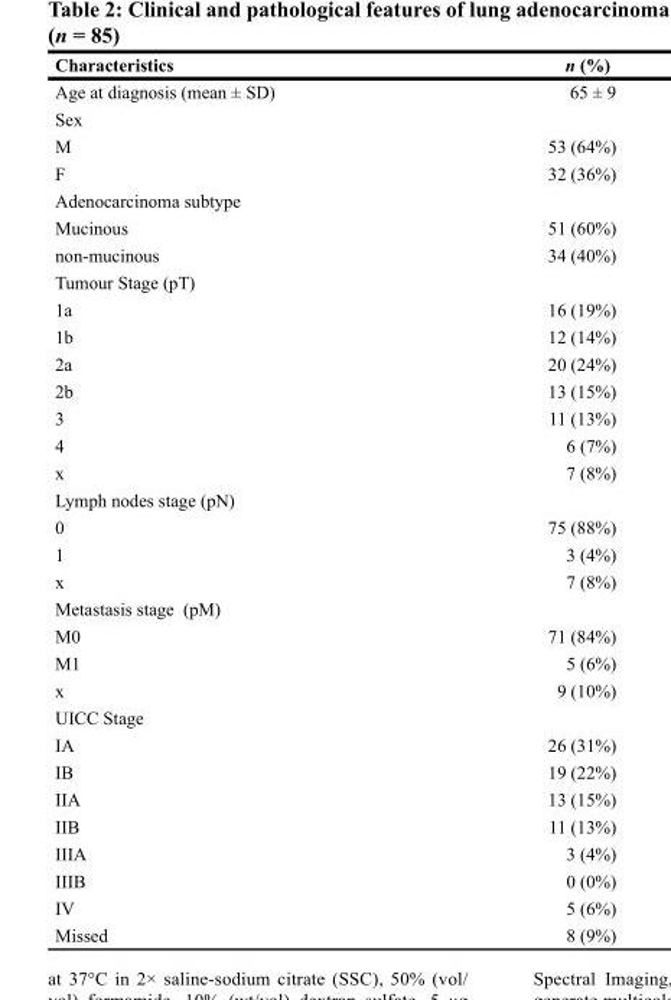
<table><thead><tr><td>Characteristics</td><td>n (%)</td></tr></thead><tbody><tr><td>Age at diagnosis (mean ± SD)</td><td>65 ± 9</td></tr><tr><td colspan="2">Sex</td></tr><tr><td>M</td><td>53 (64%)</td></tr><tr><td>F</td><td>32 (36%)</td></tr><tr><td colspan="2">Adenocarcinoma subtype</td></tr><tr><td>Mucinous</td><td>51 (60%)</td></tr><tr><td>non-mucinous</td><td>34 (40%)</td></tr><tr><td colspan="2">Tumour Stage (pT)</td></tr><tr><td>1a</td><td>16 (19%)</td></tr><tr><td>1b</td><td>12 (14%)</td></tr><tr><td>2a</td><td>20 (24%)</td></tr><tr><td>2b</td><td>13 (15%)</td></tr><tr><td>3</td><td>11 (13%)</td></tr><tr><td>4</td><td>6 (7%)</td></tr><tr><td>x</td><td>7 (8%)</td></tr><tr><td colspan="2">Lymph nodes stage (pN)</td></tr><tr><td>0</td><td>75 (88%)</td></tr><tr><td>1</td><td>3 (4%)</td></tr><tr><td>x</td><td>7 (8%)</td></tr><tr><td colspan="2">Metastasis stage (pM)</td></tr><tr><td>M0</td><td>71 (84%)</td></tr><tr><td>M1</td><td>5 (6%)</td></tr><tr><td>x</td><td>9 (10%)</td></tr><tr><td colspan="2">UICC Stage</td></tr><tr><td>IA</td><td>26 (31%)</td></tr><tr><td>IB</td><td>19 (22%)</td></tr><tr><td>IIA</td><td>13 (15%)</td></tr><tr><td>IIB</td><td>11 (13%)</td></tr><tr><td>IIIA</td><td>3 (4%)</td></tr><tr><td>IIIB</td><td>0 (0%)</td></tr><tr><td>IV</td><td>5 (6%)</td></tr><tr><td>Missed</td><td>8 (9%)</td></tr></tbody></table>